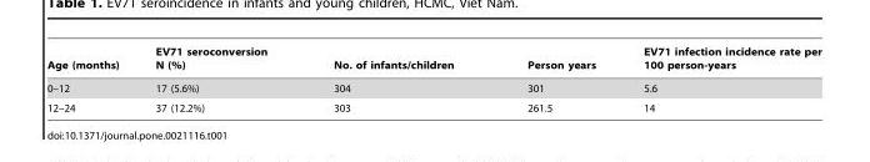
<table><thead><tr><td>Age (months)</td><td>EV71 seroconversion N (%)</td><td>No. of infants/children</td><td>Person years</td><td>EV71 infection incidence rate per 100 person-years</td></tr></thead><tbody><tr><td>0–12</td><td>17 (5.6%)</td><td>304</td><td>301</td><td>5.6</td></tr><tr><td>12–24</td><td>37 (12.2%)</td><td>303</td><td>261.5</td><td>14</td></tr></tbody></table>